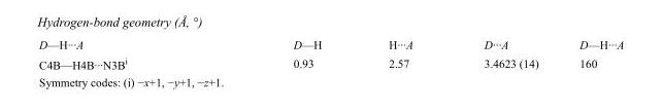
<table><tbody><tr><td>D—H···A</td><td>D—H</td><td>H···A</td><td>D···A</td><td>D—H···A</td></tr><tr><td>C4B—H4B···N3B<sup>i</sup></td><td>0.93</td><td>2.57</td><td>3.4623 (14)</td><td>160</td></tr></tbody></table>